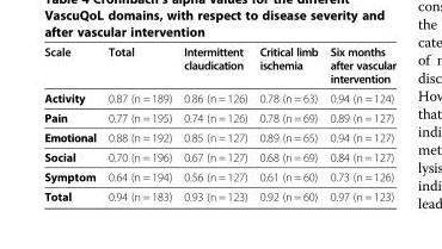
<table><thead><tr><td>Scale</td><td>Total</td><td>Intermittent claudication</td><td>Critical limb ischemia</td><td>Six months after vascular intervention</td></tr></thead><tbody><tr><td>Activity</td><td>0.87 (n = 189)</td><td>0.86 (n = 126)</td><td>0.78 (n = 63)</td><td>0.94 (n = 124)</td></tr><tr><td>Pain</td><td>0.77 (n = 195)</td><td>0.74 (n = 126)</td><td>0.78 (n = 69)</td><td>0.89 (n = 127)</td></tr><tr><td>Emotional</td><td>0.88 (n = 192)</td><td>0.85 (n = 127)</td><td>0.89 (n = 65)</td><td>0.94 (n = 127)</td></tr><tr><td>Social</td><td>0.70 (n = 196)</td><td>0.67 (n = 127)</td><td>0.68 (n = 69)</td><td>0.84 (n = 127)</td></tr><tr><td>Symptom</td><td>0.64 (n = 194)</td><td>0.56 (n = 127)</td><td>0.61 (n = 60)</td><td>0.73 (n = 126)</td></tr><tr><td>Total</td><td>0.94 (n = 183)</td><td>0.93 (n = 123)</td><td>0.92 (n = 60)</td><td>0.97 (n = 123)</td></tr></tbody></table>